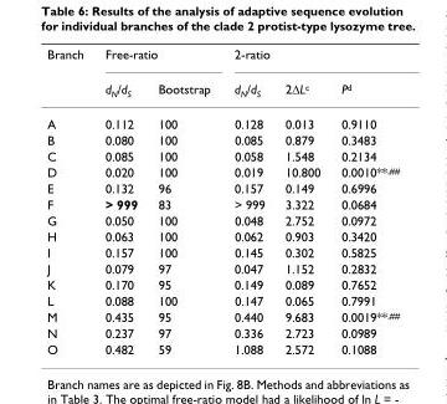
<table><thead><tr><td rowspan="2">Branch</td><td colspan="2">Free-ratio</td><td colspan="3">2-ratio</td></tr><tr><td>d<sub>N</sub>/d<sub>S</sub></td><td>Bootstrap</td><td>d<sub>N</sub>/d<sub>S</sub></td><td>2ΔL<sup>c</sup></td><td>P<sup>d</sup></td></tr></thead><tbody><tr><td>A</td><td>0.112</td><td>100</td><td>0.128</td><td>0.013</td><td>0.9110</td></tr><tr><td>B</td><td>0.080</td><td>100</td><td>0.085</td><td>0.879</td><td>0.3483</td></tr><tr><td>C</td><td>0.085</td><td>100</td><td>0.058</td><td>1.548</td><td>0.2134</td></tr><tr><td>D</td><td>0.020</td><td>100</td><td>0.019</td><td>10.800</td><td>0.0010**<sup>,##</sup></td></tr><tr><td>E</td><td>0.132</td><td>96</td><td>0.157</td><td>0.149</td><td>0.6996</td></tr><tr><td>F</td><td>&gt; 999</td><td>83</td><td>&gt; 999</td><td>3.322</td><td>0.0684</td></tr><tr><td>G</td><td>0.050</td><td>100</td><td>0.048</td><td>2.752</td><td>0.0972</td></tr><tr><td>H</td><td>0.063</td><td>100</td><td>0.062</td><td>0.903</td><td>0.3420</td></tr><tr><td>I</td><td>0.157</td><td>100</td><td>0.145</td><td>0.302</td><td>0.5825</td></tr><tr><td>J</td><td>0.079</td><td>97</td><td>0.047</td><td>1.152</td><td>0.2832</td></tr><tr><td>K</td><td>0.170</td><td>95</td><td>0.149</td><td>0.089</td><td>0.7652</td></tr><tr><td>L</td><td>0.088</td><td>100</td><td>0.147</td><td>0.065</td><td>0.7991</td></tr><tr><td>M</td><td>0.435</td><td>95</td><td>0.440</td><td>9.683</td><td>0.0019**<sup>,##</sup></td></tr><tr><td>N</td><td>0.237</td><td>97</td><td>0.336</td><td>2.723</td><td>0.0989</td></tr><tr><td>O</td><td>0.482</td><td>59</td><td>1.088</td><td>2.572</td><td>0.1088</td></tr></tbody></table>